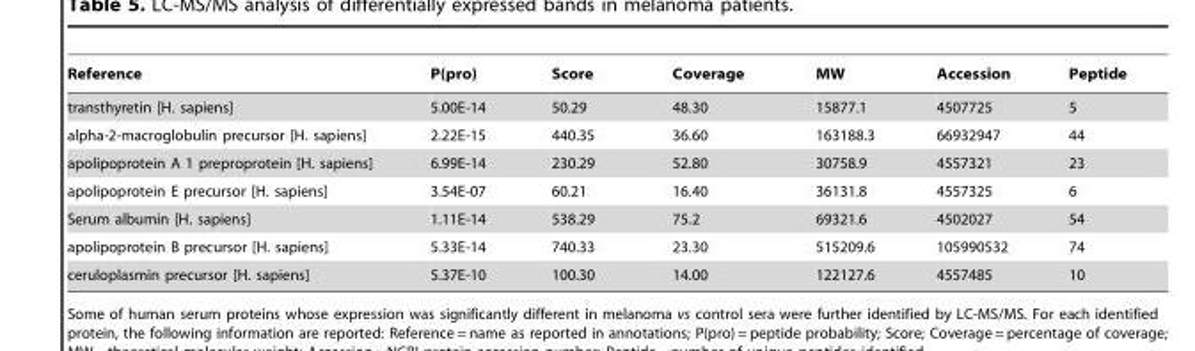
<table><thead><tr><td>Reference</td><td>P(pro)</td><td>Score</td><td>Coverage</td><td>MW</td><td>Accession</td><td>Peptide</td></tr></thead><tbody><tr><td>transthyretin [H. sapiens]</td><td>5.00E-14</td><td>50.29</td><td>48.30</td><td>15877.1</td><td>4507725</td><td>5</td></tr><tr><td>alpha-2-macroglobulin precursor [H. sapiens]</td><td>2.22E-15</td><td>440.35</td><td>36.60</td><td>163188.3</td><td>66932947</td><td>44</td></tr><tr><td>apolipoprotein A 1 preproprotein [H. sapiens]</td><td>6.99E-14</td><td>230.29</td><td>52.80</td><td>30758.9</td><td>4557321</td><td>23</td></tr><tr><td>apolipoprotein E precursor [H. sapiens]</td><td>3.54E-07</td><td>60.21</td><td>16.40</td><td>36131.8</td><td>4557325</td><td>6</td></tr><tr><td>Serum albumin [H. sapiens]</td><td>1.11E-14</td><td>538.29</td><td>75.2</td><td>69321.6</td><td>4502027</td><td>54</td></tr><tr><td>apolipoprotein B precursor [H. sapiens]</td><td>5.33E-14</td><td>740.33</td><td>23.30</td><td>515209.6</td><td>105990532</td><td>74</td></tr><tr><td>ceruloplasmin precursor [H. sapiens]</td><td>5.37E-10</td><td>100.30</td><td>14.00</td><td>122127.6</td><td>4557485</td><td>10</td></tr></tbody></table>